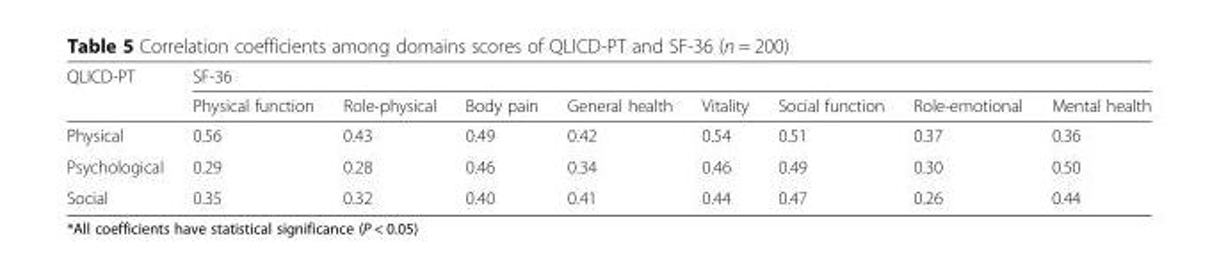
<table><thead><tr><td rowspan="2">QLICD-PT</td><td colspan="8">SF-36</td></tr><tr><td>Physical function</td><td>Role-physical</td><td>Body pain</td><td>General health</td><td>Vitality</td><td>Social function</td><td>Role-emotional</td><td>Mental health</td></tr></thead><tbody><tr><td>Physical</td><td>0.56</td><td>0.43</td><td>0.49</td><td>0.42</td><td>0.54</td><td>0.51</td><td>0.37</td><td>0.36</td></tr><tr><td>Psychological</td><td>0.29</td><td>0.28</td><td>0.46</td><td>0.34</td><td>0.46</td><td>0.49</td><td>0.30</td><td>0.50</td></tr><tr><td>Social</td><td>0.35</td><td>0.32</td><td>0.40</td><td>0.41</td><td>0.44</td><td>0.47</td><td>0.26</td><td>0.44</td></tr></tbody></table>